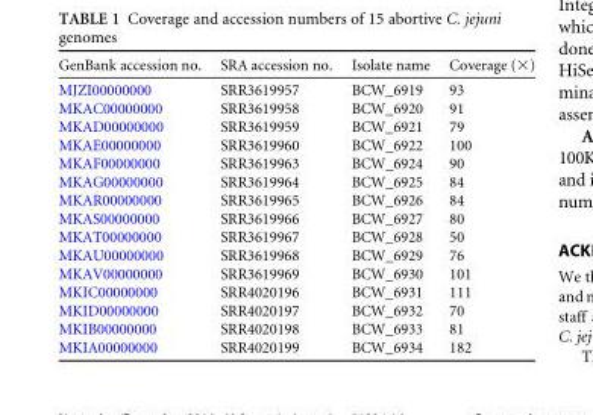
<table><thead><tr><td>GenBank accession no.</td><td>SRA accession no.</td><td>Isolate name</td><td>Coverage (×)</td></tr></thead><tbody><tr><td>MJZI00000000</td><td>SRR3619957</td><td>BCW_6919</td><td>93</td></tr><tr><td>MKAC00000000</td><td>SRR3619958</td><td>BCW_6920</td><td>91</td></tr><tr><td>MKAD00000000</td><td>SRR3619959</td><td>BCW_6921</td><td>79</td></tr><tr><td>MKAE00000000</td><td>SRR3619960</td><td>BCW_6922</td><td>100</td></tr><tr><td>MKAF00000000</td><td>SRR3619963</td><td>BCW_6924</td><td>90</td></tr><tr><td>MKAG00000000</td><td>SRR3619964</td><td>BCW_6925</td><td>84</td></tr><tr><td>MKAR00000000</td><td>SRR3619965</td><td>BCW_6926</td><td>84</td></tr><tr><td>MKAS00000000</td><td>SRR3619966</td><td>BCW_6927</td><td>80</td></tr><tr><td>MKAT00000000</td><td>SRR3619967</td><td>BCW_6928</td><td>50</td></tr><tr><td>MKAU00000000</td><td>SRR3619968</td><td>BCW_6929</td><td>76</td></tr><tr><td>MKAV00000000</td><td>SRR3619969</td><td>BCW_6930</td><td>101</td></tr><tr><td>MKIC00000000</td><td>SRR4020196</td><td>BCW_6931</td><td>111</td></tr><tr><td>MKID00000000</td><td>SRR4020197</td><td>BCW_6932</td><td>70</td></tr><tr><td>MKIB00000000</td><td>SRR4020198</td><td>BCW_6933</td><td>81</td></tr><tr><td>MKIA00000000</td><td>SRR4020199</td><td>BCW_6934</td><td>182</td></tr></tbody></table>